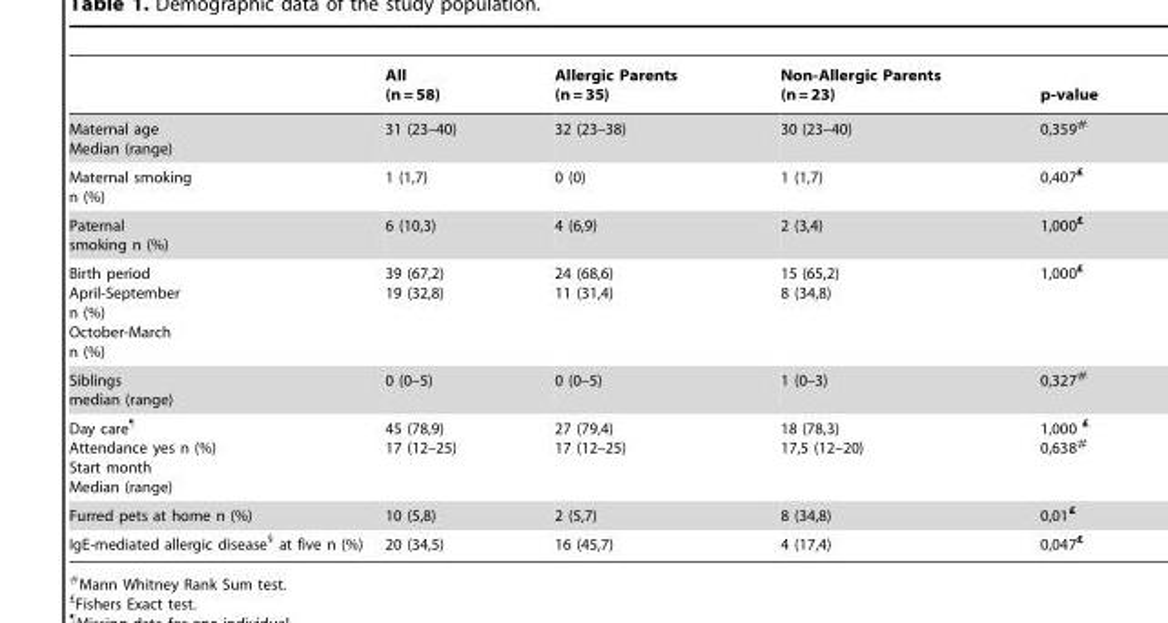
<table><thead><tr><td></td><td>All (n = 58)</td><td>Allergic Parents (n = 35)</td><td>Non-Allergic Parents (n = 23)</td><td>p-value</td></tr></thead><tbody><tr><td>Maternal age Median (range)</td><td>31 (23–40)</td><td>32 (23–38)</td><td>30 (23–40)</td><td>0,359#</td></tr><tr><td>Maternal smoking n (%)</td><td>1 (1,7)</td><td>0 (0)</td><td>1 (1,7)</td><td>0,407£</td></tr><tr><td>Paternal smoking n (%)</td><td>6 (10,3)</td><td>4 (6,9)</td><td>2 (3,4)</td><td>1,000£</td></tr><tr><td>Birth period April-September n (%) October-March n (%)</td><td>39 (67,2) 19 (32,8)</td><td>24 (68,6) 11 (31,4)</td><td>15 (65,2) 8 (34,8)</td><td>1,000£</td></tr><tr><td>Siblings median (range)</td><td>0 (0–5)</td><td>0 (0–5)</td><td>1 (0–3)</td><td>0,327#</td></tr><tr><td>Day care¶ Attendance yes n (%) Start month Median (range)</td><td>45 (78,9) 17 (12–25)</td><td>27 (79,4) 17 (12–25)</td><td>18 (78,3) 17,5 (12–20)</td><td>1,000 £ 0,638#</td></tr><tr><td>Furred pets at home n (%)</td><td>10 (5,8)</td><td>2 (5,7)</td><td>8 (34,8)</td><td>0,01£</td></tr><tr><td>IgE-mediated allergic disease§ at five n (%)</td><td>20 (34,5)</td><td>16 (45,7)</td><td>4 (17,4)</td><td>0,047£</td></tr></tbody></table>